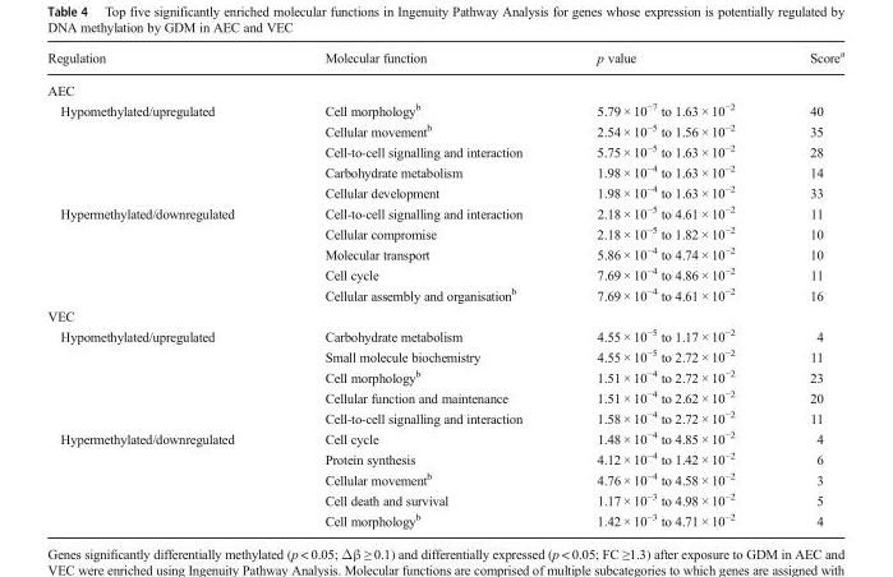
<table><thead><tr><td>Regulation</td><td>Molecular function</td><td>p value</td><td>Score<sup>a</sup></td></tr></thead><tbody><tr><td colspan="4">AEC</td></tr><tr><td rowspan="5">Hypomethylated/upregulated</td><td>Cell morphology<sup>b</sup></td><td>5.79 × 10<sup>−7</sup> to 1.63 × 10<sup>−2</sup></td><td>40</td></tr><tr><td>Cellular movement<sup>b</sup></td><td>2.54 × 10<sup>−5</sup> to 1.56 × 10<sup>−2</sup></td><td>35</td></tr><tr><td>Cell-to-cell signalling and interaction</td><td>5.75 × 10<sup>−5</sup> to 1.63 × 10<sup>−2</sup></td><td>28</td></tr><tr><td>Carbohydrate metabolism</td><td>1.98 × 10<sup>−4</sup> to 1.63 × 10<sup>−2</sup></td><td>14</td></tr><tr><td>Cellular development</td><td>1.98 × 10<sup>−4</sup> to 1.63 × 10<sup>−2</sup></td><td>33</td></tr><tr><td rowspan="5">Hypermethylated/downregulated</td><td>Cell-to-cell signalling and interaction</td><td>2.18 × 10<sup>−5</sup> to 4.61 × 10<sup>−2</sup></td><td>11</td></tr><tr><td>Cellular compromise</td><td>2.18 × 10<sup>−5</sup> to 1.82 × 10<sup>−2</sup></td><td>10</td></tr><tr><td>Molecular transport</td><td>5.86 × 10<sup>−4</sup> to 4.74 × 10<sup>−2</sup></td><td>10</td></tr><tr><td>Cell cycle</td><td>7.69 × 10<sup>−4</sup> to 4.86 × 10<sup>−2</sup></td><td>11</td></tr><tr><td>Cellular assembly and organisation<sup>b</sup></td><td>7.69 × 10<sup>−4</sup> to 4.61 × 10<sup>−2</sup></td><td>16</td></tr><tr><td colspan="4">VEC</td></tr><tr><td rowspan="5">Hypomethylated/upregulated</td><td>Carbohydrate metabolism</td><td>4.55 × 10<sup>−5</sup> to 1.17 × 10<sup>−2</sup></td><td>4</td></tr><tr><td>Small molecule biochemistry</td><td>4.55 × 10<sup>−5</sup> to 2.72 × 10<sup>−2</sup></td><td>11</td></tr><tr><td>Cell morphology<sup>b</sup></td><td>1.51 × 10<sup>−4</sup> to 2.72 × 10<sup>−2</sup></td><td>23</td></tr><tr><td>Cellular function and maintenance</td><td>1.51 × 10<sup>−4</sup> to 2.62 × 10<sup>−2</sup></td><td>20</td></tr><tr><td>Cell-to-cell signalling and interaction</td><td>1.58 × 10<sup>−4</sup> to 2.72 × 10<sup>−2</sup></td><td>11</td></tr><tr><td rowspan="5">Hypermethylated/downregulated</td><td>Cell cycle</td><td>1.48 × 10<sup>−4</sup> to 4.85 × 10<sup>−2</sup></td><td>4</td></tr><tr><td>Protein synthesis</td><td>4.12 × 10<sup>−4</sup> to 1.42 × 10<sup>−2</sup></td><td>6</td></tr><tr><td>Cellular movement<sup>b</sup></td><td>4.76 × 10<sup>−4</sup> to 4.58 × 10<sup>−2</sup></td><td>3</td></tr><tr><td>Cell death and survival</td><td>1.17 × 10<sup>−3</sup> to 4.98 × 10<sup>−2</sup></td><td>5</td></tr><tr><td>Cell morphology<sup>b</sup></td><td>1.42 × 10<sup>−3</sup> to 4.71 × 10<sup>−2</sup></td><td>4</td></tr></tbody></table>